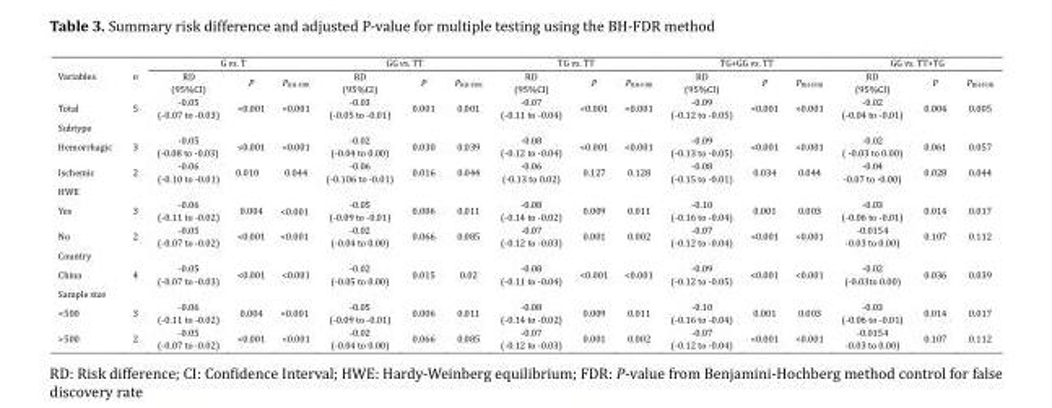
<table><thead><tr><td rowspan="2">Variables</td><td rowspan="2">n</td><td colspan="3">G vs. T</td><td colspan="3">GG vs. TT</td><td colspan="3">TG vs. TT</td><td colspan="3">TG+GG vs. TT</td><td colspan="3">GG vs. TT+TG</td></tr><tr><td>RD (95%CI)</td><td>P</td><td>P<sub>BH-FDR</sub></td><td>RD (95%CI)</td><td>P</td><td>P<sub>BH-FDR</sub></td><td>RD (95%CI)</td><td>P</td><td>P<sub>BH-FDR</sub></td><td>RD (95%CI)</td><td>P</td><td>P<sub>BH-FDR</sub></td><td>RD (95%CI)</td><td>P</td><td>P<sub>BH-FDR</sub></td></tr></thead><tbody><tr><td>Total</td><td>5</td><td>-0.05 (-0.07 to -0.03)</td><td>&lt;0.001</td><td>&lt;0.001</td><td>-0.03 (-0.05 to -0.01)</td><td>0.001</td><td>0.001</td><td>-0.07 (-0.11 to -0.04)</td><td>&lt;0.001</td><td>&lt;0.001</td><td>-0.09 (-0.12 to -0.05)</td><td>&lt;0.001</td><td>&lt;0.001</td><td>-0.02 (-0.04 to -0.01)</td><td>0.004</td><td>0.005</td></tr><tr><td colspan="17">Subtype</td></tr><tr><td>Hemorrhagic</td><td>3</td><td>-0.05 (-0.08 to -0.03)</td><td>&lt;0.001</td><td>&lt;0.001</td><td>-0.02 (-0.04 to 0.00)</td><td>0.030</td><td>0.039</td><td>-0.08 (-0.12 to -0.04)</td><td>&lt;0.001</td><td>&lt;0.001</td><td>-0.09 (-0.13 to -0.05)</td><td>&lt;0.001</td><td>&lt;0.001</td><td>-0.02 ( -0.03 to 0.00)</td><td>0.061</td><td>0.057</td></tr><tr><td>Ischemic</td><td>2</td><td>-0.06 (-0.10 to -0.01)</td><td>0.010</td><td>0.044</td><td>-0.06 (-0.106 to -0.01)</td><td>0.016</td><td>0.044</td><td>-0.06 (-0.13 to 0.02)</td><td>0.127</td><td>0.128</td><td>-0.08 (-0.15 to -0.01)</td><td>0.034</td><td>0.044</td><td>-0.04 -0.07 to -0.00)</td><td>0.028</td><td>0.044</td></tr><tr><td colspan="17">HWE</td></tr><tr><td>Yes</td><td>3</td><td>-0.06 (-0.11 to -0.02)</td><td>0.004</td><td>&lt;0.001</td><td>-0.05 (-0.09 to -0.01)</td><td>0.006</td><td>0.011</td><td>-0.08 (-0.14 to -0.02)</td><td>0.009</td><td>0.011</td><td>-0.10 (-0.16 to -0.04)</td><td>0.001</td><td>0.003</td><td>-0.03 (-0.06 to -0.01)</td><td>0.014</td><td>0.017</td></tr><tr><td>No</td><td>2</td><td>-0.05 (-0.07 to -0.02)</td><td>&lt;0.001</td><td>&lt;0.001</td><td>-0.02 (-0.04 to 0.00)</td><td>0.066</td><td>0.085</td><td>-0.07 (-0.12 to -0.03)</td><td>0.001</td><td>0.002</td><td>-0.07 (-0.12 to -0.04)</td><td>&lt;0.001</td><td>&lt;0.001</td><td>-0.0154 -0.03 to 0.00)</td><td>0.107</td><td>0.112</td></tr><tr><td colspan="17">Country</td></tr><tr><td>China</td><td>4</td><td>-0.05 (-0.07 to -0.03)</td><td>&lt;0.001</td><td>&lt;0.001</td><td>-0.02 (-0.05 to 0.00)</td><td>0.015</td><td>0.02</td><td>-0.08 (-0.11 to -0.04)</td><td>&lt;0.001</td><td>&lt;0.001</td><td>-0.09 (-0.12 to -0.05)</td><td>&lt;0.001</td><td>&lt;0.001</td><td>-0.02 (-0.03to 0.00)</td><td>0.036</td><td>0.039</td></tr><tr><td colspan="17">Sample size</td></tr><tr><td>&lt;500</td><td>3</td><td>-0.06 (-0.11 to -0.02)</td><td>0.004</td><td>&lt;0.001</td><td>-0.05 (-0.09 to -0.01)</td><td>0.006</td><td>0.011</td><td>-0.08 (-0.14 to -0.02)</td><td>0.009</td><td>0.011</td><td>-0.10 (-0.16 to -0.04)</td><td>0.001</td><td>0.003</td><td>-0.03 (-0.06 to -0.01)</td><td>0.014</td><td>0.017</td></tr><tr><td>&gt;500</td><td>2</td><td>-0.05 (-0.07 to -0.02)</td><td>&lt;0.001</td><td>&lt;0.001</td><td>-0.02 (-0.04 to 0.00)</td><td>0.066</td><td>0.085</td><td>-0.07 (-0.12 to -0.03)</td><td>0.001</td><td>0.002</td><td>-0.07 (-0.12 to -0.04)</td><td>&lt;0.001</td><td>&lt;0.001</td><td>-0.0154 -0.03 to 0.00)</td><td>0.107</td><td>0.112</td></tr></tbody></table>